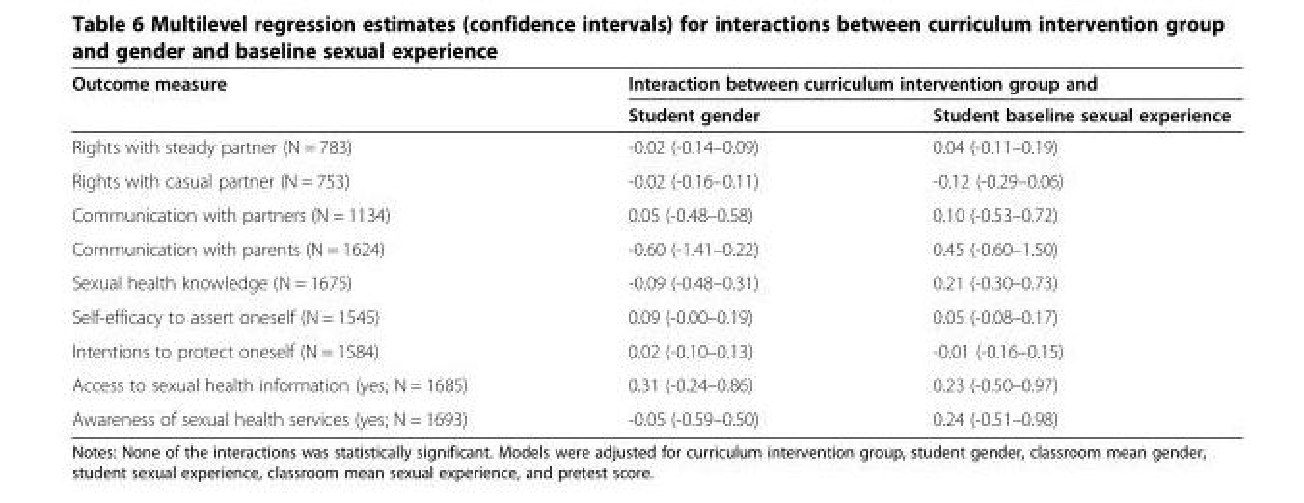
<table><thead><tr><td rowspan="2">Outcome measure</td><td colspan="2">Interaction between curriculum intervention group and</td></tr><tr><td>Student gender</td><td>Student baseline sexual experience</td></tr></thead><tbody><tr><td>Rights with steady partner (N = 783)</td><td>-0.02 (-0.14–0.09)</td><td>0.04 (-0.11–0.19)</td></tr><tr><td>Rights with casual partner (N = 753)</td><td>-0.02 (-0.16–0.11)</td><td>-0.12 (-0.29–0.06)</td></tr><tr><td>Communication with partners (N = 1134)</td><td>0.05 (-0.48–0.58)</td><td>0.10 (-0.53–0.72)</td></tr><tr><td>Communication with parents (N = 1624)</td><td>-0.60 (-1.41–0.22)</td><td>0.45 (-0.60–1.50)</td></tr><tr><td>Sexual health knowledge (N = 1675)</td><td>-0.09 (-0.48–0.31)</td><td>0.21 (-0.30–0.73)</td></tr><tr><td>Self-efficacy to assert oneself (N = 1545)</td><td>0.09 (-0.00–0.19)</td><td>0.05 (-0.08–0.17)</td></tr><tr><td>Intentions to protect oneself (N = 1584)</td><td>0.02 (-0.10–0.13)</td><td>-0.01 (-0.16–0.15)</td></tr><tr><td>Access to sexual health information (yes; N = 1685)</td><td>0.31 (-0.24–0.86)</td><td>0.23 (-0.50–0.97)</td></tr><tr><td>Awareness of sexual health services (yes; N = 1693)</td><td>-0.05 (-0.59–0.50)</td><td>0.24 (-0.51–0.98)</td></tr></tbody></table>